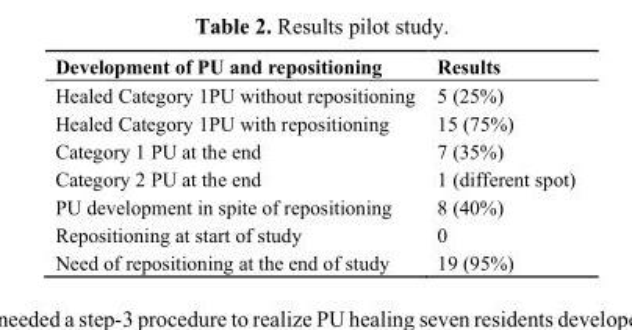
<table><thead><tr><td>Development of PU and repositioning</td><td>Results</td></tr></thead><tbody><tr><td>Healed Category 1PU without repositioning</td><td>5 (25%)</td></tr><tr><td>Healed Category 1PU with repositioning</td><td>15 (75%)</td></tr><tr><td>Category 1 PU at the end</td><td>7 (35%)</td></tr><tr><td>Category 2 PU at the end</td><td>1 (different spot)</td></tr><tr><td>PU development in spite of repositioning</td><td>8 (40%)</td></tr><tr><td>Repositioning at start of study</td><td>0</td></tr><tr><td>Need of repositioning at the end of study</td><td>19 (95%)</td></tr></tbody></table>